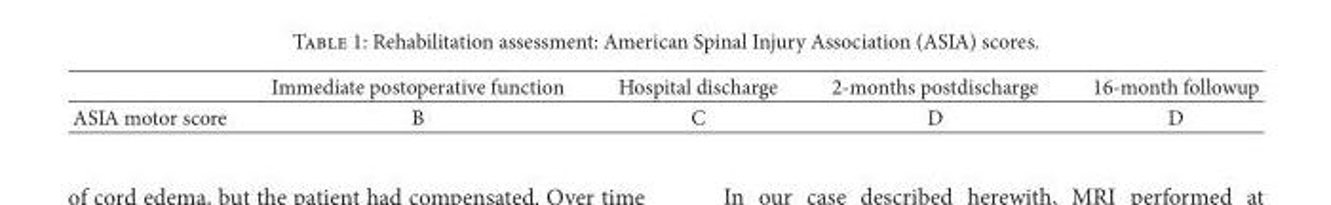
<table><thead><tr><td></td><td>Immediate postoperative function</td><td>Hospital discharge</td><td>2-months postdischarge</td><td>16-month followup</td></tr></thead><tbody><tr><td>ASIA motor score</td><td>B</td><td>C</td><td>D</td><td>D</td></tr></tbody></table>